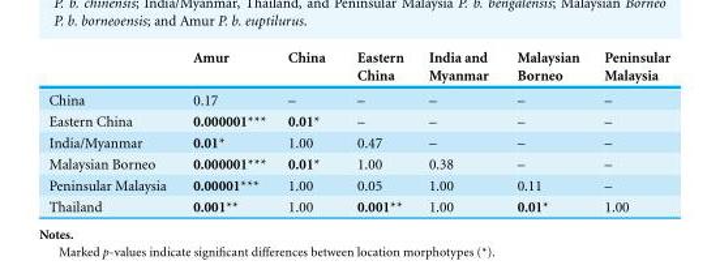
<table><thead><tr><td></td><td>Amur</td><td>China</td><td>Eastern China</td><td>India and Myanmar</td><td>Malaysian Borneo</td><td>Peninsular Malaysia</td></tr></thead><tbody><tr><td>China</td><td>0.17</td><td>–</td><td>–</td><td>–</td><td>–</td><td>–</td></tr><tr><td>Eastern China</td><td>0.000001***</td><td>0.01*</td><td>–</td><td>–</td><td>–</td><td>–</td></tr><tr><td>India/Myanmar</td><td>0.01*</td><td>1.00</td><td>0.47</td><td>–</td><td>–</td><td>–</td></tr><tr><td>Malaysian Borneo</td><td>0.000001***</td><td>0.01*</td><td>1.00</td><td>0.38</td><td>–</td><td>–</td></tr><tr><td>Peninsular Malaysia</td><td>0.00001***</td><td>1.00</td><td>0.05</td><td>1.00</td><td>0.11</td><td>–</td></tr><tr><td>Thailand</td><td>0.001**</td><td>1.00</td><td>0.001**</td><td>1.00</td><td>0.01*</td><td>1.00</td></tr></tbody></table>